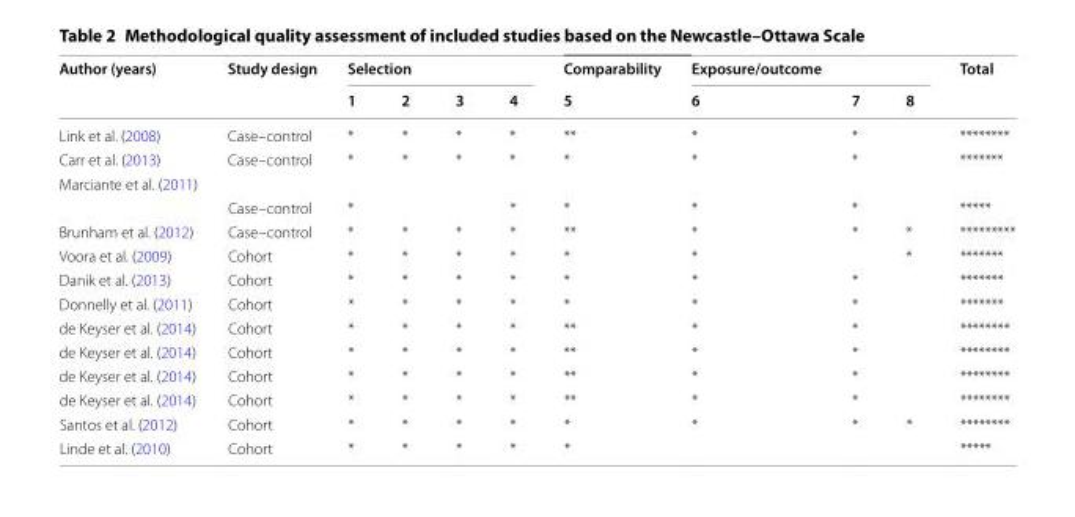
<table><thead><tr><td rowspan="2">Author (years)</td><td rowspan="2">Study design</td><td colspan="4">Selection</td><td rowspan="2">Comparability 5</td><td colspan="3">Exposure/outcome</td><td rowspan="2">Total</td></tr><tr><td>1</td><td>2</td><td>3</td><td>4</td><td>6</td><td>7</td><td>8</td></tr></thead><tbody><tr><td>Link et al. (2008)</td><td>Case–control</td><td>*</td><td>*</td><td>*</td><td>*</td><td>**</td><td>*</td><td>*</td><td></td><td>********</td></tr><tr><td>Carr et al. (2013)</td><td>Case–control</td><td>*</td><td>*</td><td>*</td><td>*</td><td>*</td><td>*</td><td>*</td><td></td><td>*******</td></tr><tr><td colspan="11">Marciante et al. (2011)</td></tr><tr><td></td><td>Case–control</td><td>*</td><td></td><td></td><td>*</td><td>*</td><td>*</td><td>*</td><td></td><td>*****</td></tr><tr><td>Brunham et al. (2012)</td><td>Case–control</td><td>*</td><td>*</td><td>*</td><td>*</td><td>**</td><td>*</td><td>*</td><td>*</td><td>*********</td></tr><tr><td>Voora et al. (2009)</td><td>Cohort</td><td>*</td><td>*</td><td>*</td><td>*</td><td>*</td><td>*</td><td></td><td>*</td><td>*******</td></tr><tr><td>Danik et al. (2013)</td><td>Cohort</td><td>*</td><td>*</td><td>*</td><td>*</td><td>*</td><td>*</td><td>*</td><td></td><td>*******</td></tr><tr><td>Donnelly et al. (2011)</td><td>Cohort</td><td>*</td><td>*</td><td>*</td><td>*</td><td>*</td><td>*</td><td>*</td><td></td><td>*******</td></tr><tr><td>de Keyser et al. (2014)</td><td>Cohort</td><td>*</td><td>*</td><td>*</td><td>*</td><td>**</td><td>*</td><td>*</td><td></td><td>********</td></tr><tr><td>de Keyser et al. (2014)</td><td>Cohort</td><td>*</td><td>*</td><td>*</td><td>*</td><td>**</td><td>*</td><td>*</td><td></td><td>********</td></tr><tr><td>de Keyser et al. (2014)</td><td>Cohort</td><td>*</td><td>*</td><td>*</td><td>*</td><td>**</td><td>*</td><td>*</td><td></td><td>********</td></tr><tr><td>de Keyser et al. (2014)</td><td>Cohort</td><td>*</td><td>*</td><td>*</td><td>*</td><td>**</td><td>*</td><td>*</td><td></td><td>********</td></tr><tr><td>Santos et al. (2012)</td><td>Cohort</td><td>*</td><td>*</td><td>*</td><td>*</td><td>*</td><td>*</td><td>*</td><td>*</td><td>********</td></tr><tr><td>Linde et al. (2010)</td><td>Cohort</td><td>*</td><td>*</td><td>*</td><td>*</td><td>*</td><td></td><td></td><td></td><td>*****</td></tr></tbody></table>